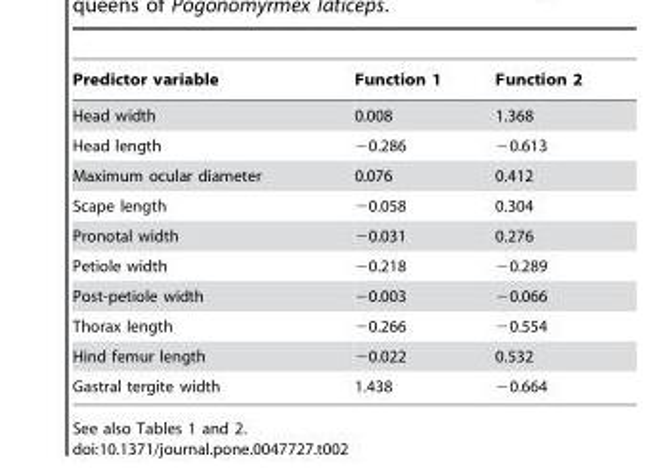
<table><thead><tr><td>Predictor variable</td><td>Function 1</td><td>Function 2</td></tr></thead><tbody><tr><td>Head width</td><td>0.008</td><td>1.368</td></tr><tr><td>Head length</td><td>−0.286</td><td>−0.613</td></tr><tr><td>Maximum ocular diameter</td><td>0.076</td><td>0.412</td></tr><tr><td>Scape length</td><td>−0.058</td><td>0.304</td></tr><tr><td>Pronotal width</td><td>−0.031</td><td>0.276</td></tr><tr><td>Petiole width</td><td>−0.218</td><td>−0.289</td></tr><tr><td>Post-petiole width</td><td>−0.003</td><td>−0.066</td></tr><tr><td>Thorax length</td><td>−0.266</td><td>−0.554</td></tr><tr><td>Hind femur length</td><td>−0.022</td><td>0.532</td></tr><tr><td>Gastral tergite width</td><td>1.438</td><td>−0.664</td></tr></tbody></table>